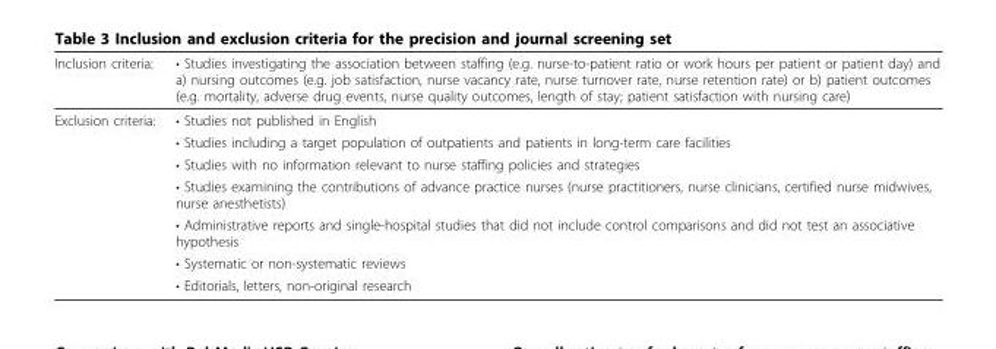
<table><thead><tr><td>Inclusion criteria:</td><td>• Studies investigating the association between staffing (e.g. nurse-to-patient ratio or work hours per patient or patient day) and a) nursing outcomes (e.g. job satisfaction, nurse vacancy rate, nurse turnover rate, nurse retention rate) or b) patient outcomes (e.g. mortality, adverse drug events, nurse quality outcomes, length of stay; patient satisfaction with nursing care)</td></tr></thead><tbody><tr><td rowspan="7">Exclusion criteria:</td><td>• Studies not published in English</td></tr><tr><td>• Studies including a target population of outpatients and patients in long-term care facilities</td></tr><tr><td>• Studies with no information relevant to nurse staffing policies and strategies</td></tr><tr><td>• Studies examining the contributions of advance practice nurses (nurse practitioners, nurse clinicians, certified nurse midwives, nurse anesthetists)</td></tr><tr><td>• Administrative reports and single-hospital studies that did not include control comparisons and did not test an associative hypothesis</td></tr><tr><td>• Systematic or non-systematic reviews</td></tr><tr><td>• Editorials, letters, non-original research</td></tr></tbody></table>